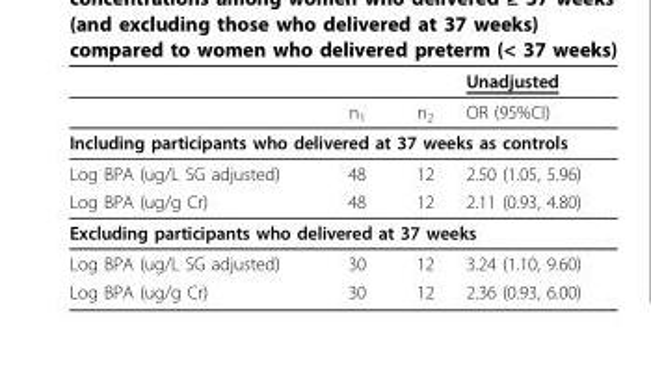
<table><thead><tr><td></td><td></td><td></td><td>Unadjusted</td></tr></thead><tbody><tr><td></td><td>n<sub>1</sub></td><td>n<sub>2</sub></td><td>OR (95%CI)</td></tr><tr><td colspan="4">Including participants who delivered at 37 weeks as controls</td></tr><tr><td>Log BPA (ug/L SG adjusted)</td><td>48</td><td>12</td><td>2.50 (1.05, 5.96)</td></tr><tr><td>Log BPA (ug/g Cr)</td><td>48</td><td>12</td><td>2.11 (0.93, 4.80)</td></tr><tr><td colspan="4">Excluding participants who delivered at 37 weeks</td></tr><tr><td>Log BPA (ug/L SG adjusted)</td><td>30</td><td>12</td><td>3.24 (1.10, 9.60)</td></tr><tr><td>Log BPA (ug/g Cr)</td><td>30</td><td>12</td><td>2.36 (0.93, 6.00)</td></tr></tbody></table>